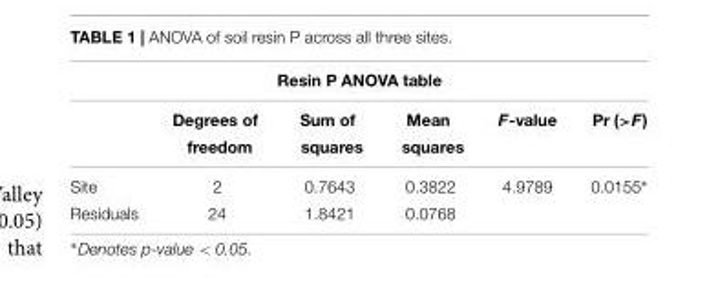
<table><thead><tr><td colspan="6">Resin P ANOVA table</td></tr><tr><td rowspan="2"></td><td rowspan="2">Degrees of freedom</td><td rowspan="2">Sum of squares</td><td rowspan="2">Mean squares</td><td rowspan="2">F-value</td><td rowspan="2">Pr (&gt;F)</td></tr><tr></tr></thead><tbody><tr><td>Site</td><td>2</td><td>0.7643</td><td>0.3822</td><td>4.9789</td><td>0.0155∗</td></tr><tr><td>Residuals</td><td>24</td><td>1.8421</td><td>0.0768</td><td></td><td></td></tr></tbody></table>